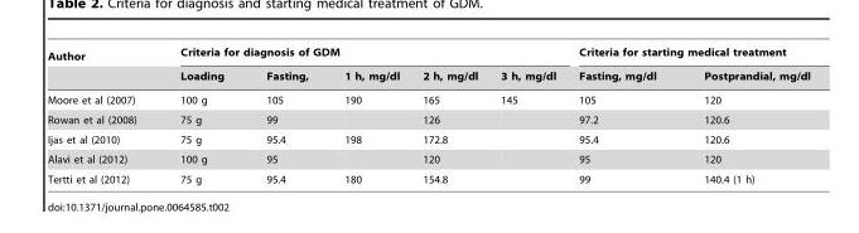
<table><thead><tr><td rowspan="2">Author</td><td colspan="5">Criteria for diagnosis of GDM</td><td colspan="2">Criteria for starting medical treatment</td></tr><tr><td>Loading</td><td>Fasting,</td><td>1 h, mg/dl</td><td>2 h, mg/dl</td><td>3 h, mg/dl</td><td>Fasting, mg/dl</td><td>Postprandial, mg/dl</td></tr></thead><tbody><tr><td>Moore et al (2007)</td><td>100 g</td><td>105</td><td>190</td><td>165</td><td>145</td><td>105</td><td>120</td></tr><tr><td>Rowan et al (2008)</td><td>75 g</td><td>99</td><td></td><td>126</td><td></td><td>97.2</td><td>120.6</td></tr><tr><td>Ijas et al (2010)</td><td>75 g</td><td>95.4</td><td>198</td><td>172.8</td><td></td><td>95.4</td><td>120.6</td></tr><tr><td>Alavi et al (2012)</td><td>100 g</td><td>95</td><td></td><td>120</td><td></td><td>95</td><td>120</td></tr><tr><td>Tertti et al (2012)</td><td>75 g</td><td>95.4</td><td>180</td><td>154.8</td><td></td><td>99</td><td>140.4 (1 h)</td></tr></tbody></table>